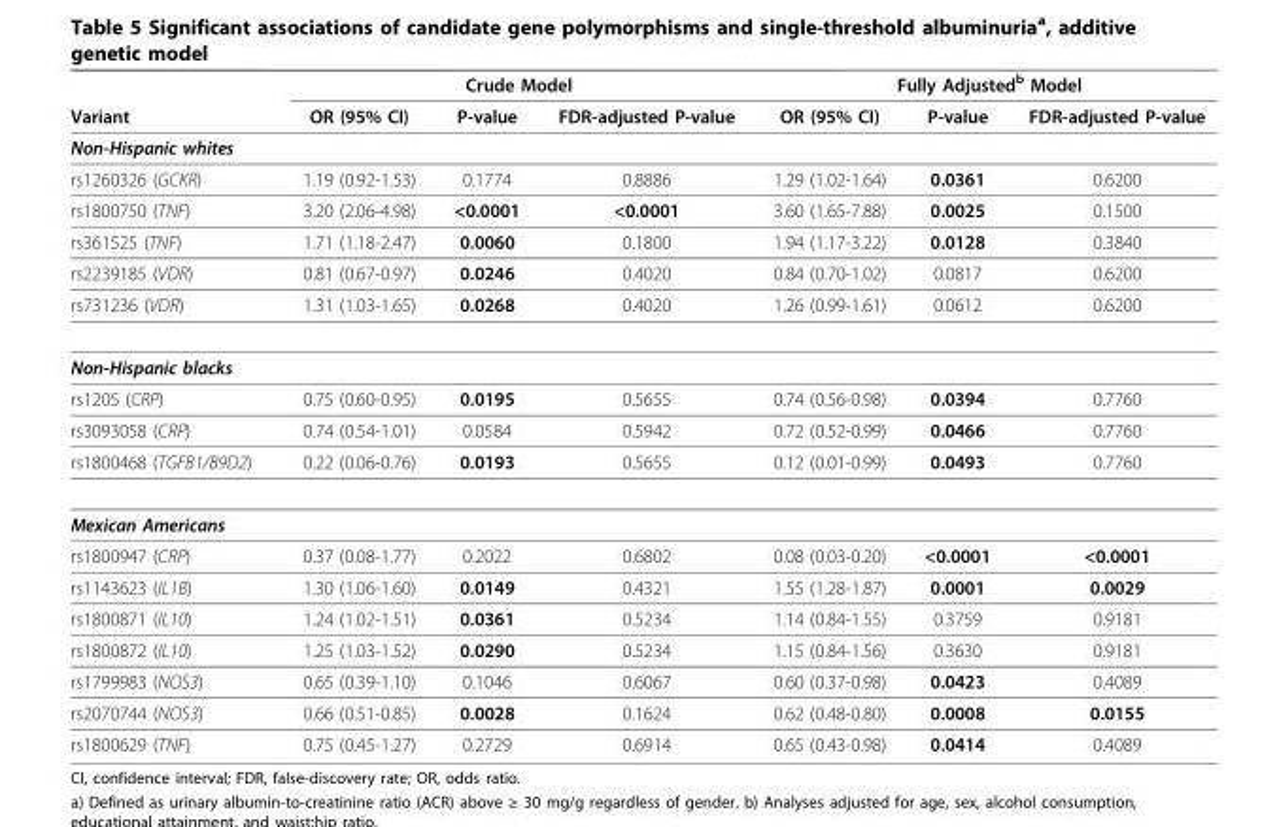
<table><thead><tr><td rowspan="2">Variant</td><td colspan="3">Crude Model</td><td colspan="3">Fully Adjustedb Model</td></tr><tr><td>OR (95% CI)</td><td>P-value</td><td>FDR-adjusted P-value</td><td>OR (95% CI)</td><td>P-value</td><td>FDR-adjusted P-value</td></tr></thead><tbody><tr><td colspan="7">Non-Hispanic whites</td></tr><tr><td>rs1260326 (GCKR)</td><td>1.19 (0.92-1.53)</td><td>0.1774</td><td>0.8886</td><td>1.29 (1.02-1.64)</td><td>0.0361</td><td>0.6200</td></tr><tr><td>rs1800750 (TNF)</td><td>3.20 (2.06-4.98)</td><td>&lt;0.0001</td><td>&lt;0.0001</td><td>3.60 (1.65-7.88)</td><td>0.0025</td><td>0.1500</td></tr><tr><td>rs361525 (TNF)</td><td>1.71 (1.18-2.47)</td><td>0.0060</td><td>0.1800</td><td>1.94 (1.17-3.22)</td><td>0.0128</td><td>0.3840</td></tr><tr><td>rs2239185 (VDR)</td><td>0.81 (0.67-0.97)</td><td>0.0246</td><td>0.4020</td><td>0.84 (0.70-1.02)</td><td>0.0817</td><td>0.6200</td></tr><tr><td>rs731236 (VDR)</td><td>1.31 (1.03-1.65)</td><td>0.0268</td><td>0.4020</td><td>1.26 (0.99-1.61)</td><td>0.0612</td><td>0.6200</td></tr><tr><td colspan="7">Non-Hispanic blacks</td></tr><tr><td>rs1205 (CRP)</td><td>0.75 (0.60-0.95)</td><td>0.0195</td><td>0.5655</td><td>0.74 (0.56-0.98)</td><td>0.0394</td><td>0.7760</td></tr><tr><td>rs3093058 (CRP)</td><td>0.74 (0.54-1.01)</td><td>0.0584</td><td>0.5942</td><td>0.72 (0.52-0.99)</td><td>0.0466</td><td>0.7760</td></tr><tr><td>rs1800468 (TGFB1/B9D2)</td><td>0.22 (0.06-0.76)</td><td>0.0193</td><td>0.5655</td><td>0.12 (0.01-0.99)</td><td>0.0493</td><td>0.7760</td></tr><tr><td colspan="7">Mexican Americans</td></tr><tr><td>rs1800947 (CRP)</td><td>0.37 (0.08-1.77)</td><td>0.2022</td><td>0.6802</td><td>0.08 (0.03-0.20)</td><td>&lt;0.0001</td><td>&lt;0.0001</td></tr><tr><td>rs1143623 (IL1B)</td><td>1.30 (1.06-1.60)</td><td>0.0149</td><td>0.4321</td><td>1.55 (1.28-1.87)</td><td>0.0001</td><td>0.0029</td></tr><tr><td>rs1800871 (IL10)</td><td>1.24 (1.02-1.51)</td><td>0.0361</td><td>0.5234</td><td>1.14 (0.84-1.55)</td><td>0.3759</td><td>0.9181</td></tr><tr><td>rs1800872 (IL10)</td><td>1.25 (1.03-1.52)</td><td>0.0290</td><td>0.5234</td><td>1.15 (0.84-1.56)</td><td>0.3630</td><td>0.9181</td></tr><tr><td>rs1799983 (NOS3)</td><td>0.65 (0.39-1.10)</td><td>0.1046</td><td>0.6067</td><td>0.60 (0.37-0.98)</td><td>0.0423</td><td>0.4089</td></tr><tr><td>rs2070744 (NOS3)</td><td>0.66 (0.51-0.85)</td><td>0.0028</td><td>0.1624</td><td>0.62 (0.48-0.80)</td><td>0.0008</td><td>0.0155</td></tr><tr><td>rs1800629 (TNF)</td><td>0.75 (0.45-1.27)</td><td>0.2729</td><td>0.6914</td><td>0.65 (0.43-0.98)</td><td>0.0414</td><td>0.4089</td></tr></tbody></table>